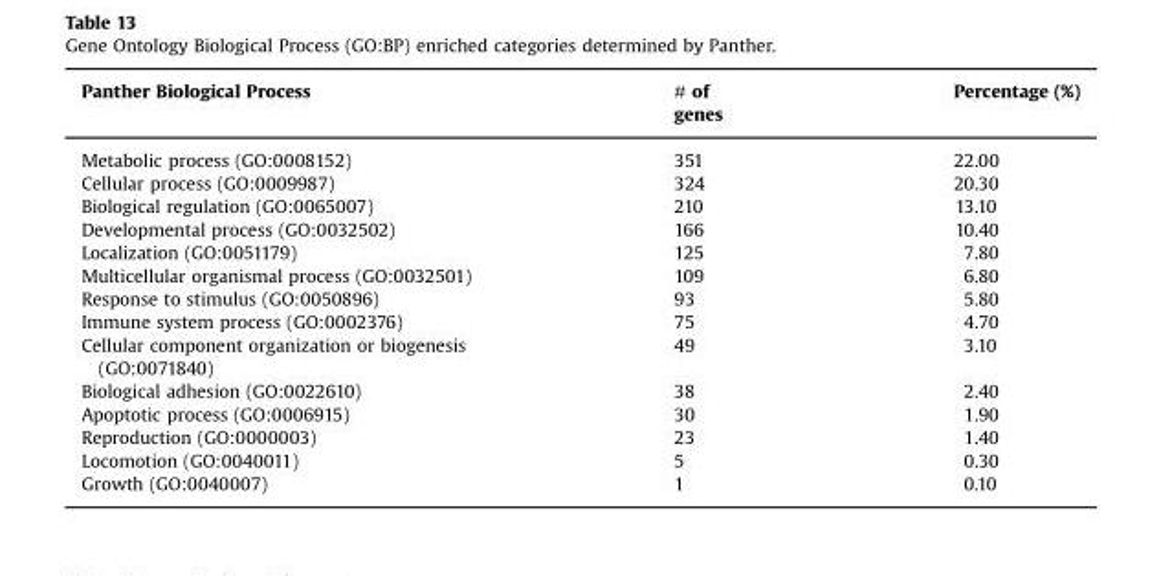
<table><thead><tr><td>Panther Biological Process</td><td># of genes</td><td>Percentage (%)</td></tr></thead><tbody><tr><td>Metabolic process (GO:0008152)</td><td>351</td><td>22.00</td></tr><tr><td>Cellular process (GO:0009987)</td><td>324</td><td>20.30</td></tr><tr><td>Biological regulation (GO:0065007)</td><td>210</td><td>13.10</td></tr><tr><td>Developmental process (GO:0032502)</td><td>166</td><td>10.40</td></tr><tr><td>Localization (GO:0051179)</td><td>125</td><td>7.80</td></tr><tr><td>Multicellular organismal process (GO:0032501)</td><td>109</td><td>6.80</td></tr><tr><td>Response to stimulus (GO:0050896)</td><td>93</td><td>5.80</td></tr><tr><td>Immune system process (GO:0002376)</td><td>75</td><td>4.70</td></tr><tr><td>Cellular component organization or biogenesis (GO:0071840)</td><td>49</td><td>3.10</td></tr><tr><td>Biological adhesion (GO:0022610)</td><td>38</td><td>2.40</td></tr><tr><td>Apoptotic process (GO:0006915)</td><td>30</td><td>1.90</td></tr><tr><td>Reproduction (GO:0000003)</td><td>23</td><td>1.40</td></tr><tr><td>Locomotion (GO:0040011)</td><td>5</td><td>0.30</td></tr><tr><td>Growth (GO:0040007)</td><td>1</td><td>0.10</td></tr></tbody></table>